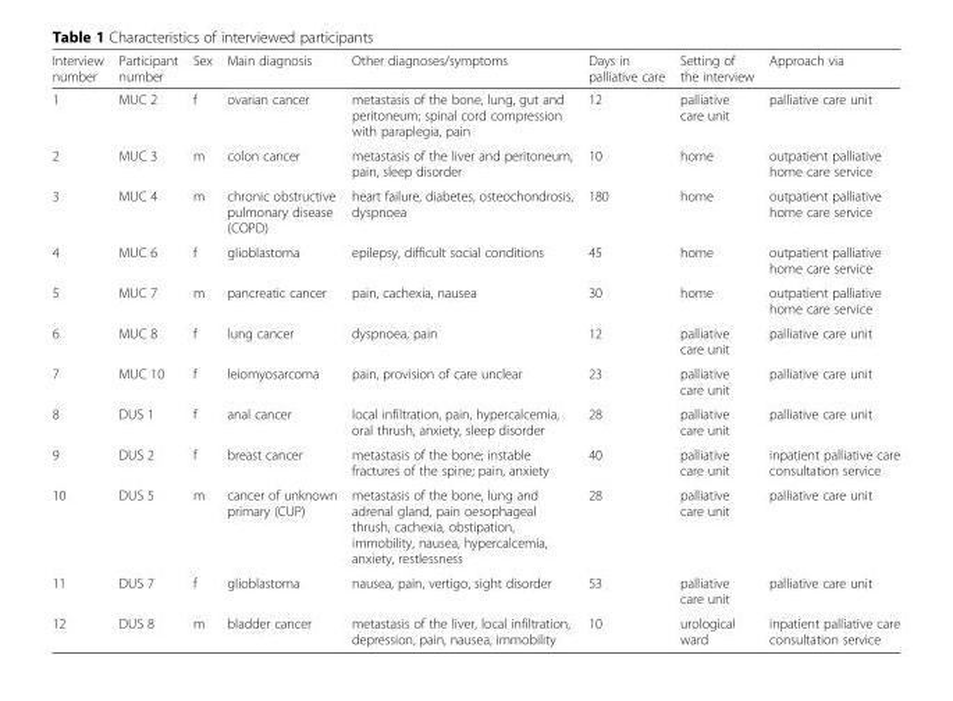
<table><thead><tr><td>Interview number</td><td>Participant number</td><td>Sex</td><td>Main diagnosis</td><td>Other diagnoses/symptoms</td><td>Days in palliative care</td><td>Setting of the interview</td><td>Approach via</td></tr></thead><tbody><tr><td>1</td><td>MUC 2</td><td>f</td><td>ovarian cancer</td><td>metastasis of the bone, lung, gut and peritoneum; spinal cord compression with paraplegia, pain</td><td>12</td><td>palliative care unit</td><td>palliative care unit</td></tr><tr><td>2</td><td>MUC 3</td><td>m</td><td>colon cancer</td><td>metastasis of the liver and peritoneum, pain, sleep disorder</td><td>10</td><td>home</td><td>outpatient palliative home care service</td></tr><tr><td>3</td><td>MUC 4</td><td>m</td><td>chronic obstructive pulmonary disease (COPD)</td><td>heart failure, diabetes, osteochondrosis, dyspnoea</td><td>180</td><td>home</td><td>outpatient palliative home care service</td></tr><tr><td>4</td><td>MUC 6</td><td>f</td><td>glioblastoma</td><td>epilepsy, difficult social conditions</td><td>45</td><td>home</td><td>outpatient palliative home care service</td></tr><tr><td>5</td><td>MUC 7</td><td>m</td><td>pancreatic cancer</td><td>pain, cachexia, nausea</td><td>30</td><td>home</td><td>outpatient palliative home care service</td></tr><tr><td>6</td><td>MUC 8</td><td>f</td><td>lung cancer</td><td>dyspnoea, pain</td><td>12</td><td>palliative care unit</td><td>palliative care unit</td></tr><tr><td>7</td><td>MUC 10</td><td>f</td><td>leiomyosarcoma</td><td>pain, provision of care unclear</td><td>23</td><td>palliative care unit</td><td>palliative care unit</td></tr><tr><td>8</td><td>DUS 1</td><td>f</td><td>anal cancer</td><td>local infiltration, pain, hypercalcemia, oral thrush, anxiety, sleep disorder</td><td>28</td><td>palliative care unit</td><td>palliative care unit</td></tr><tr><td>9</td><td>DUS 2</td><td>f</td><td>breast cancer</td><td>metastasis of the bone; instable fractures of the spine; pain, anxiety</td><td>40</td><td>palliative care unit</td><td>inpatient palliative care consultation service</td></tr><tr><td>10</td><td>DUS 5</td><td>m</td><td>cancer of unknown primary (CUP)</td><td>metastasis of the bone, lung and adrenal gland, pain oesophageal thrush, cachexia, obstipation, immobility, nausea, hypercalcemia, anxiety, restlessness</td><td>28</td><td>palliative care unit</td><td>palliative care unit</td></tr><tr><td>11</td><td>DUS 7</td><td>f</td><td>glioblastoma</td><td>nausea, pain, vertigo, sight disorder</td><td>53</td><td>palliative care unit</td><td>palliative care unit</td></tr><tr><td>12</td><td>DUS 8</td><td>m</td><td>bladder cancer</td><td>metastasis of the liver, local infiltration, depression, pain, nausea, immobility</td><td>10</td><td>urological ward</td><td>inpatient palliative care consultation service</td></tr></tbody></table>